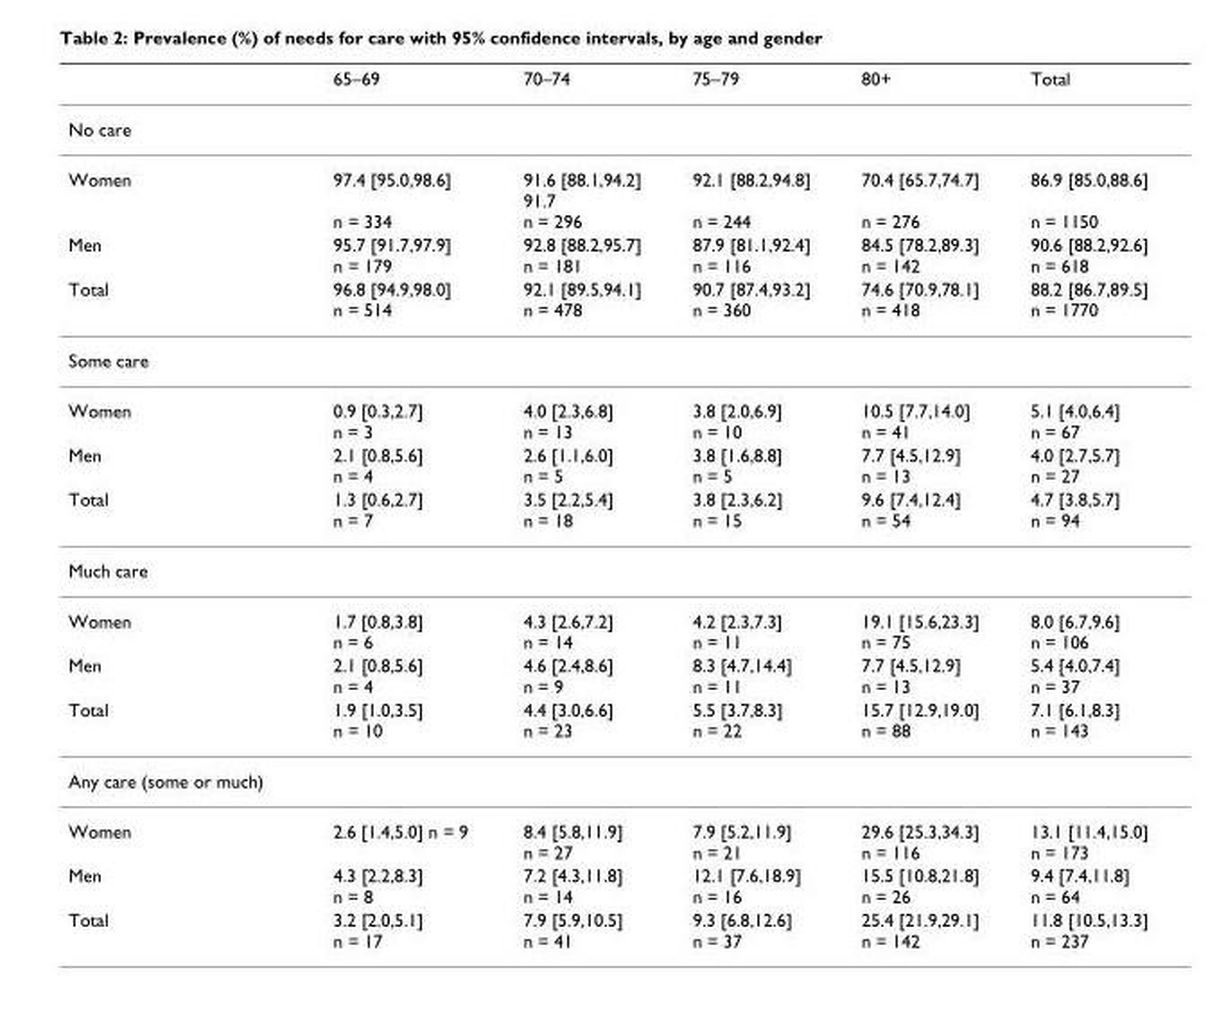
<table><thead><tr><td></td><td>65–69</td><td>70–74</td><td>75–79</td><td>80+</td><td>Total</td></tr></thead><tbody><tr><td colspan="6">No care</td></tr><tr><td>Women</td><td>97.4 [95.0,98.6] n = 334</td><td>91.6 [88.1,94.2] 91.7 n = 296</td><td>92.1 [88.2,94.8] n = 244</td><td>70.4 [65.7,74.7] n = 276</td><td>86.9 [85.0,88.6] n = 1150</td></tr><tr><td>Men</td><td>95.7 [91.7,97.9] n = 179</td><td>92.8 [88.2,95.7] n = 181</td><td>87.9 [81.1,92.4] n = 116</td><td>84.5 [78.2,89.3] n = 142</td><td>90.6 [88.2,92.6] n = 618</td></tr><tr><td>Total</td><td>96.8 [94.9,98.0] n = 514</td><td>92.1 [89.5,94.1] n = 478</td><td>90.7 [87.4,93.2] n = 360</td><td>74.6 [70.9,78.1] n = 418</td><td>88.2 [86.7,89.5] n = 1770</td></tr><tr><td colspan="6">Some care</td></tr><tr><td>Women</td><td>0.9 [0.3,2.7] n = 3</td><td>4.0 [2.3,6.8] n = 13</td><td>3.8 [2.0,6.9] n = 10</td><td>10.5 [7.7,14.0] n = 41</td><td>5.1 [4.0,6.4] n = 67</td></tr><tr><td>Men</td><td>2.1 [0.8,5.6] n = 4</td><td>2.6 [1.1,6.0] n = 5</td><td>3.8 [1.6,8.8] n = 5</td><td>7.7 [4.5,12.9] n = 13</td><td>4.0 [2.7,5.7] n = 27</td></tr><tr><td>Total</td><td>1.3 [0.6,2.7] n = 7</td><td>3.5 [2.2,5.4] n = 18</td><td>3.8 [2.3,6.2] n = 15</td><td>9.6 [7.4,12.4] n = 54</td><td>4.7 [3.8,5.7] n = 94</td></tr><tr><td colspan="6">Much care</td></tr><tr><td>Women</td><td>1.7 [0.8,3.8] n = 6</td><td>4.3 [2.6,7.2] n = 14</td><td>4.2 [2.3,7.3] n = 11</td><td>19.1 [15.6,23.3] n = 75</td><td>8.0 [6.7,9.6] n = 106</td></tr><tr><td>Men</td><td>2.1 [0.8,5.6] n = 4</td><td>4.6 [2.4,8.6] n = 9</td><td>8.3 [4.7,14.4] n = 11</td><td>7.7 [4.5,12.9] n = 13</td><td>5.4 [4.0,7.4] n = 37</td></tr><tr><td>Total</td><td>1.9 [1.0,3.5] n = 10</td><td>4.4 [3.0,6.6] n = 23</td><td>5.5 [3.7,8.3] n = 22</td><td>15.7 [12.9,19.0] n = 88</td><td>7.1 [6.1,8.3] n = 143</td></tr><tr><td colspan="6">Any care (some or much)</td></tr><tr><td>Women</td><td>2.6 [1.4,5.0] n = 9</td><td>8.4 [5.8,11.9] n = 27</td><td>7.9 [5.2,11.9] n = 21</td><td>29.6 [25.3,34.3] n = 116</td><td>13.1 [11.4,15.0] n = 173</td></tr><tr><td>Men</td><td>4.3 [2.2,8.3] n = 8</td><td>7.2 [4.3,11.8] n = 14</td><td>12.1 [7.6,18.9] n = 16</td><td>15.5 [10.8,21.8] n = 26</td><td>9.4 [7.4,11.8] n = 64</td></tr><tr><td>Total</td><td>3.2 [2.0,5.1] n = 17</td><td>7.9 [5.9,10.5] n = 41</td><td>9.3 [6.8,12.6] n = 37</td><td>25.4 [21.9,29.1] n = 142</td><td>11.8 [10.5,13.3] n = 237</td></tr></tbody></table>